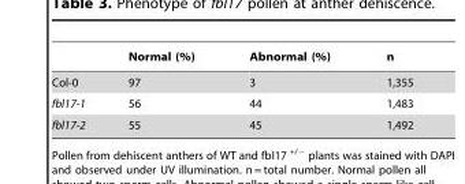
<table><thead><tr><td></td><td>Normal (%)</td><td>Abnormal (%)</td><td>n</td></tr></thead><tbody><tr><td>Col-0</td><td>97</td><td>3</td><td>1,355</td></tr><tr><td>fbl17-1</td><td>56</td><td>44</td><td>1,483</td></tr><tr><td>fbl17-2</td><td>55</td><td>45</td><td>1,492</td></tr></tbody></table>